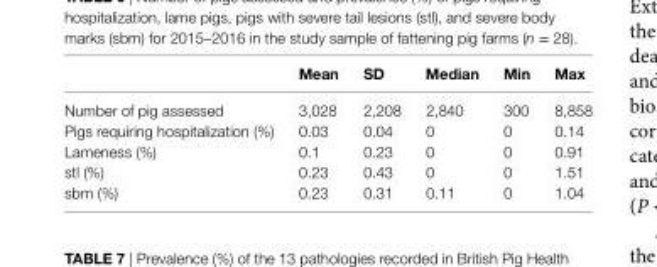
<table><thead><tr><td></td><td>Mean</td><td>sD</td><td>Median</td><td>Min</td><td>Max</td></tr></thead><tbody><tr><td>Number of pig assessed</td><td>3,028</td><td>2,208</td><td>2,840</td><td>300</td><td>8,858</td></tr><tr><td>Pigs requiring hospitalization (%)</td><td>0.03</td><td>0.04</td><td>0</td><td>0</td><td>0.14</td></tr><tr><td>Lameness (%)</td><td>0.1</td><td>0.23</td><td>0</td><td>0</td><td>0.91</td></tr><tr><td>stl (%)</td><td>0.23</td><td>0.43</td><td>0</td><td>0</td><td>1.51</td></tr><tr><td>sbm (%)</td><td>0.23</td><td>0.31</td><td>0.11</td><td>0</td><td>1.04</td></tr></tbody></table>